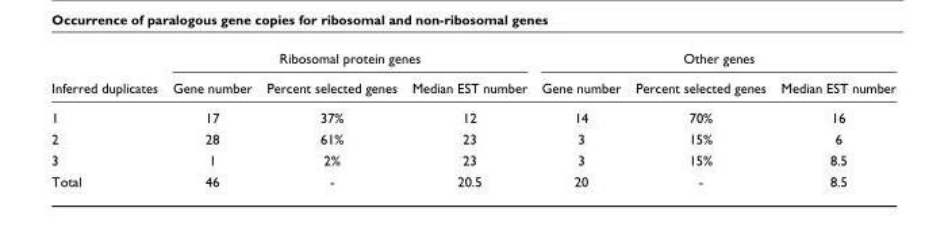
<table><thead><tr><td rowspan="2">Inferred duplicates</td><td colspan="3">Ribosomal protein genes</td><td colspan="3">Other genes</td></tr><tr><td>Gene number</td><td>Percent selected genes</td><td>Median EST number</td><td>Gene number</td><td>Percent selected genes</td><td>Median EST number</td></tr></thead><tbody><tr><td>1</td><td>17</td><td>37%</td><td>12</td><td>14</td><td>70%</td><td>16</td></tr><tr><td>2</td><td>28</td><td>61%</td><td>23</td><td>3</td><td>15%</td><td>6</td></tr><tr><td>3</td><td>1</td><td>2%</td><td>23</td><td>3</td><td>15%</td><td>8.5</td></tr><tr><td>Total</td><td>46</td><td>-</td><td>20.5</td><td>20</td><td>-</td><td>8.5</td></tr></tbody></table>